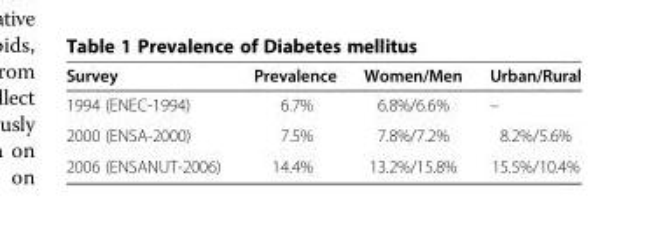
<table><thead><tr><td>Survey</td><td>Prevalence</td><td>Women/Men</td><td>Urban/Rural</td></tr></thead><tbody><tr><td>1994 (ENEC-1994)</td><td>6.7%</td><td>6.8%/6.6%</td><td>–</td></tr><tr><td>2000 (ENSA-2000)</td><td>7.5%</td><td>7.8%/7.2%</td><td>8.2%/5.6%</td></tr><tr><td>2006 (ENSANUT-2006)</td><td>14.4%</td><td>13.2%/15.8%</td><td>15.5%/10.4%</td></tr></tbody></table>